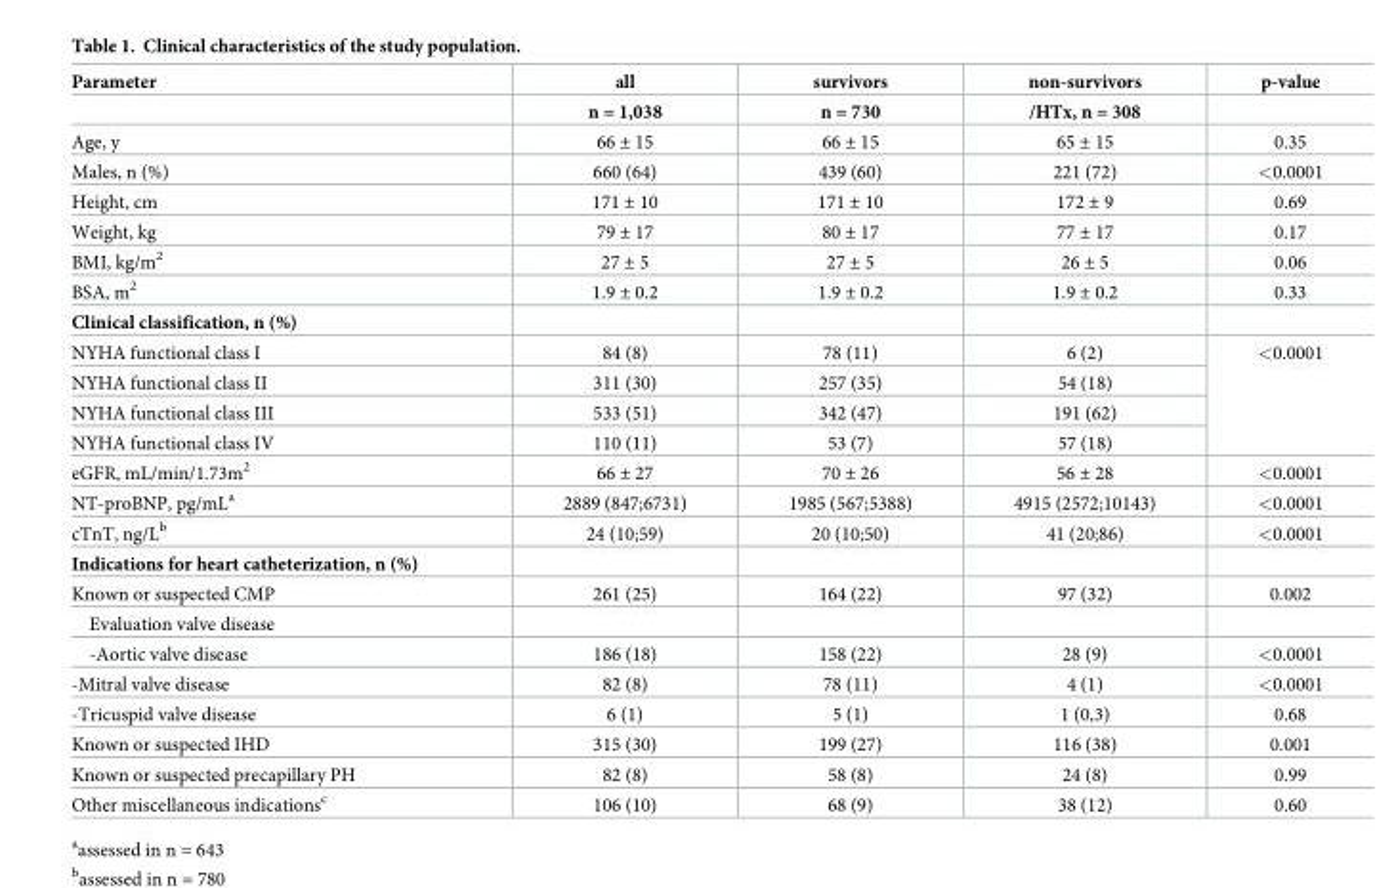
<table><thead><tr><td rowspan="2">Parameter</td><td rowspan="2">all n = 1,038</td><td rowspan="2">survivors n = 730</td><td rowspan="2">non-survivors /HTx, n = 308</td><td rowspan="2">p-value</td></tr><tr></tr></thead><tbody><tr><td>Age, y</td><td>66 ± 15</td><td>66 ± 15</td><td>65 ± 15</td><td>0.35</td></tr><tr><td>Males, n (%)</td><td>660 (64)</td><td>439 (60)</td><td>221 (72)</td><td>&lt;0.0001</td></tr><tr><td>Height, cm</td><td>171 ± 10</td><td>171 ± 10</td><td>172 ± 9</td><td>0.69</td></tr><tr><td>Weight, kg</td><td>79 ± 17</td><td>80 ± 17</td><td>77 ± 17</td><td>0.17</td></tr><tr><td>BMI, kg/m<sup>2</sup></td><td>27 ± 5</td><td>27 ± 5</td><td>26 ± 5</td><td>0.06</td></tr><tr><td>BSA, m<sup>2</sup></td><td>1.9 ± 0.2</td><td>1.9 ± 0.2</td><td>1.9 ± 0.2</td><td>0.33</td></tr><tr><td colspan="5">Clinical classification, n (%)</td></tr><tr><td>NYHA functional class I</td><td>84 (8)</td><td>78 (11)</td><td>6 (2)</td><td rowspan="4">&lt;0.0001</td></tr><tr><td>NYHA functional class II</td><td>311 (30)</td><td>257 (35)</td><td>54 (18)</td></tr><tr><td>NYHA functional class III</td><td>533 (51)</td><td>342 (47)</td><td>191 (62)</td></tr><tr><td>NYHA functional class IV</td><td>110 (11)</td><td>53 (7)</td><td>57 (18)</td></tr><tr><td>eGFR, mL/min/1.73m<sup>2</sup></td><td>66 ± 27</td><td>70 ± 26</td><td>56 ± 28</td><td>&lt;0.0001</td></tr><tr><td>NT-proBNP, pg/mL<sup>a</sup></td><td>2889 (847;6731)</td><td>1985 (567;5388)</td><td>4915 (2572;10143)</td><td>&lt;0.0001</td></tr><tr><td>cTnT, ng/L<sup>b</sup></td><td>24 (10;59)</td><td>20 (10;50)</td><td>41 (20;86)</td><td>&lt;0.0001</td></tr><tr><td colspan="5">Indications for heart catheterization, n (%)</td></tr><tr><td>Known or suspected CMP</td><td>261 (25)</td><td>164 (22)</td><td>97 (32)</td><td>0.002</td></tr><tr><td colspan="5">Evaluation valve disease</td></tr><tr><td>-Aortic valve disease</td><td>186 (18)</td><td>158 (22)</td><td>28 (9)</td><td>&lt;0.0001</td></tr><tr><td>-Mitral valve disease</td><td>82 (8)</td><td>78 (11)</td><td>4 (1)</td><td>&lt;0.0001</td></tr><tr><td>-Tricuspid valve disease</td><td>6 (1)</td><td>5 (1)</td><td>1 (0,3)</td><td>0.68</td></tr><tr><td>Known or suspected IHD</td><td>315 (30)</td><td>199 (27)</td><td>116 (38)</td><td>0.001</td></tr><tr><td>Known or suspected precapillary PH</td><td>82 (8)</td><td>58 (8)</td><td>24 (8)</td><td>0.99</td></tr><tr><td>Other miscellaneous indications<sup>c</sup></td><td>106 (10)</td><td>68 (9)</td><td>38 (12)</td><td>0.60</td></tr></tbody></table>